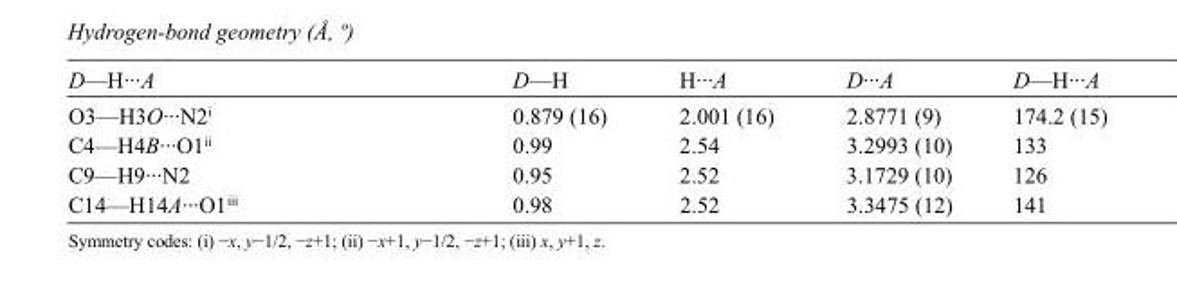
<table><tbody><tr><td>D—H···A</td><td>D—H</td><td>H···A</td><td>D···A</td><td>D—H···A</td></tr><tr><td>O3—H3O···N2<sup>i</sup></td><td>0.879 (16)</td><td>2.001 (16)</td><td>2.8771 (9)</td><td>174.2 (15)</td></tr><tr><td>C4—H4B···O1<sup>ii</sup></td><td>0.99</td><td>2.54</td><td>3.2993 (10)</td><td>133</td></tr><tr><td>C9—H9···N2</td><td>0.95</td><td>2.52</td><td>3.1729 (10)</td><td>126</td></tr><tr><td>C14—H14A···O1<sup>iii</sup></td><td>0.98</td><td>2.52</td><td>3.3475 (12)</td><td>141</td></tr></tbody></table>